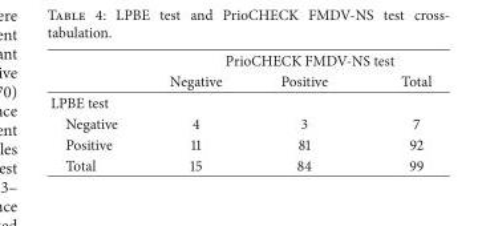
<table><thead><tr><td rowspan="2"></td><td colspan="3">PrioCHECK FMDV-NS test</td></tr><tr><td>Negative</td><td>Positive</td><td>Total</td></tr></thead><tbody><tr><td colspan="4">LPBE test</td></tr><tr><td>Negative</td><td>4</td><td>3</td><td>7</td></tr><tr><td>Positive</td><td>11</td><td>81</td><td>92</td></tr><tr><td>Total</td><td>15</td><td>84</td><td>99</td></tr></tbody></table>